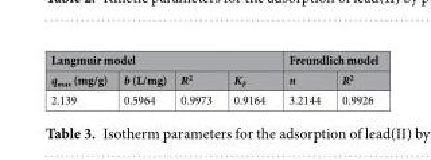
<table><thead><tr><td colspan="4">Langmuir model</td><td colspan="2">Freundlich model</td></tr><tr><td>q<sub>max</sub> (mg/g)</td><td>b (L/mg)</td><td>R<sup>2</sup></td><td>K<sub>F</sub></td><td>n</td><td>R<sup>2</sup></td></tr></thead><tbody><tr><td>2.139</td><td>0.5964</td><td>0.9973</td><td>0.9164</td><td>3.2144</td><td>0.9926</td></tr></tbody></table>